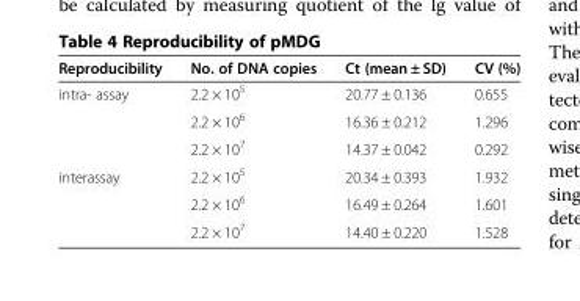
<table><thead><tr><td>Reproducibility</td><td>No. of DNA copies</td><td>Ct (mean ± SD)</td><td>CV (%)</td></tr></thead><tbody><tr><td rowspan="3">intra- assay</td><td>2.2 × 10<sup>5</sup></td><td>20.77 ± 0.136</td><td>0.655</td></tr><tr><td>2.2 × 10<sup>6</sup></td><td>16.36 ± 0.212</td><td>1.296</td></tr><tr><td>2.2 × 10<sup>7</sup></td><td>14.37 ± 0.042</td><td>0.292</td></tr><tr><td rowspan="3">interassay</td><td>2.2 × 10<sup>5</sup></td><td>20.34 ± 0.393</td><td>1.932</td></tr><tr><td>2.2 × 10<sup>6</sup></td><td>16.49 ± 0.264</td><td>1.601</td></tr><tr><td>2.2 × 10<sup>7</sup></td><td>14.40 ± 0.220</td><td>1.528</td></tr></tbody></table>